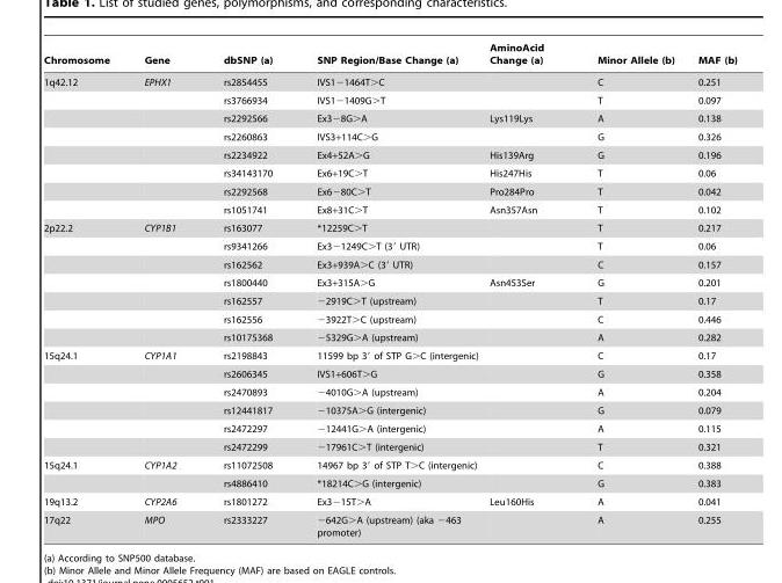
<table><thead><tr><td>Chromosome</td><td>Gene</td><td>dbSNP (a)</td><td>SNP Region/Base Change (a)</td><td>AminoAcid Change (a)</td><td>Minor Allele (b)</td><td>MAF (b)</td></tr></thead><tbody><tr><td rowspan="8">1q42.12</td><td>EPHX1</td><td>rs2854455</td><td>IVS1−1464T&gt;C</td><td></td><td>C</td><td>0.251</td></tr><tr><td></td><td>rs3766934</td><td>IVS1−1409G&gt;T</td><td></td><td>T</td><td>0.097</td></tr><tr><td></td><td>rs2292566</td><td>Ex3−8G&gt;A</td><td>Lys119Lys</td><td>A</td><td>0.138</td></tr><tr><td></td><td>rs2260863</td><td>IVS3+114C&gt;G</td><td></td><td>G</td><td>0.326</td></tr><tr><td></td><td>rs2234922</td><td>Ex4+52A&gt;G</td><td>His139Arg</td><td>G</td><td>0.196</td></tr><tr><td></td><td>rs34143170</td><td>Ex6+19C&gt;T</td><td>His247His</td><td>T</td><td>0.06</td></tr><tr><td></td><td>rs2292568</td><td>Ex6−80C&gt;T</td><td>Pro284Pro</td><td>T</td><td>0.042</td></tr><tr><td></td><td>rs1051741</td><td>Ex8+31C&gt;T</td><td>Asn357Asn</td><td>T</td><td>0.102</td></tr><tr><td rowspan="7">2p22.2</td><td>CYP1B1</td><td>rs163077</td><td>*12259C&gt;T</td><td></td><td>T</td><td>0.217</td></tr><tr><td></td><td>rs9341266</td><td>Ex3−1249C&gt;T (3′ UTR)</td><td></td><td>T</td><td>0.06</td></tr><tr><td></td><td>rs162562</td><td>Ex3+939A&gt;C (3′ UTR)</td><td></td><td>C</td><td>0.157</td></tr><tr><td></td><td>rs1800440</td><td>Ex3+315A&gt;G</td><td>Asn453Ser</td><td>G</td><td>0.201</td></tr><tr><td></td><td>rs162557</td><td>−2919C&gt;T (upstream)</td><td></td><td>T</td><td>0.17</td></tr><tr><td></td><td>rs162556</td><td>−3922T&gt;C (upstream)</td><td></td><td>C</td><td>0.446</td></tr><tr><td></td><td>rs10175368</td><td>−5329G&gt;A (upstream)</td><td></td><td>A</td><td>0.282</td></tr><tr><td rowspan="6">15q24.1</td><td>CYP1A1</td><td>rs2198843</td><td>11599 bp 3′ of STP G&gt;C (intergenic)</td><td></td><td>C</td><td>0.17</td></tr><tr><td></td><td>rs2606345</td><td>IVS1+606T&gt;G</td><td></td><td>G</td><td>0.358</td></tr><tr><td></td><td>rs2470893</td><td>−4010G&gt;A (upstream)</td><td></td><td>A</td><td>0.204</td></tr><tr><td></td><td>rs12441817</td><td>−10375A&gt;G (intergenic)</td><td></td><td>G</td><td>0.079</td></tr><tr><td></td><td>rs2472297</td><td>−12441G&gt;A (intergenic)</td><td></td><td>A</td><td>0.115</td></tr><tr><td></td><td>rs2472299</td><td>−17961C&gt;T (intergenic)</td><td></td><td>T</td><td>0.321</td></tr><tr><td rowspan="2">15q24.1</td><td>CYP1A2</td><td>rs11072508</td><td>14967 bp 3′ of STP T&gt;C (intergenic)</td><td></td><td>C</td><td>0.388</td></tr><tr><td></td><td>rs4886410</td><td>*18214C&gt;G (intergenic)</td><td></td><td>G</td><td>0.383</td></tr><tr><td>19q13.2</td><td>CYP2A6</td><td>rs1801272</td><td>Ex3−15T&gt;A</td><td>Leu160His</td><td>A</td><td>0.041</td></tr><tr><td>17q22</td><td>MPO</td><td>rs2333227</td><td>−642G&gt;A (upstream) (aka −463 promoter)</td><td></td><td>A</td><td>0.255</td></tr></tbody></table>